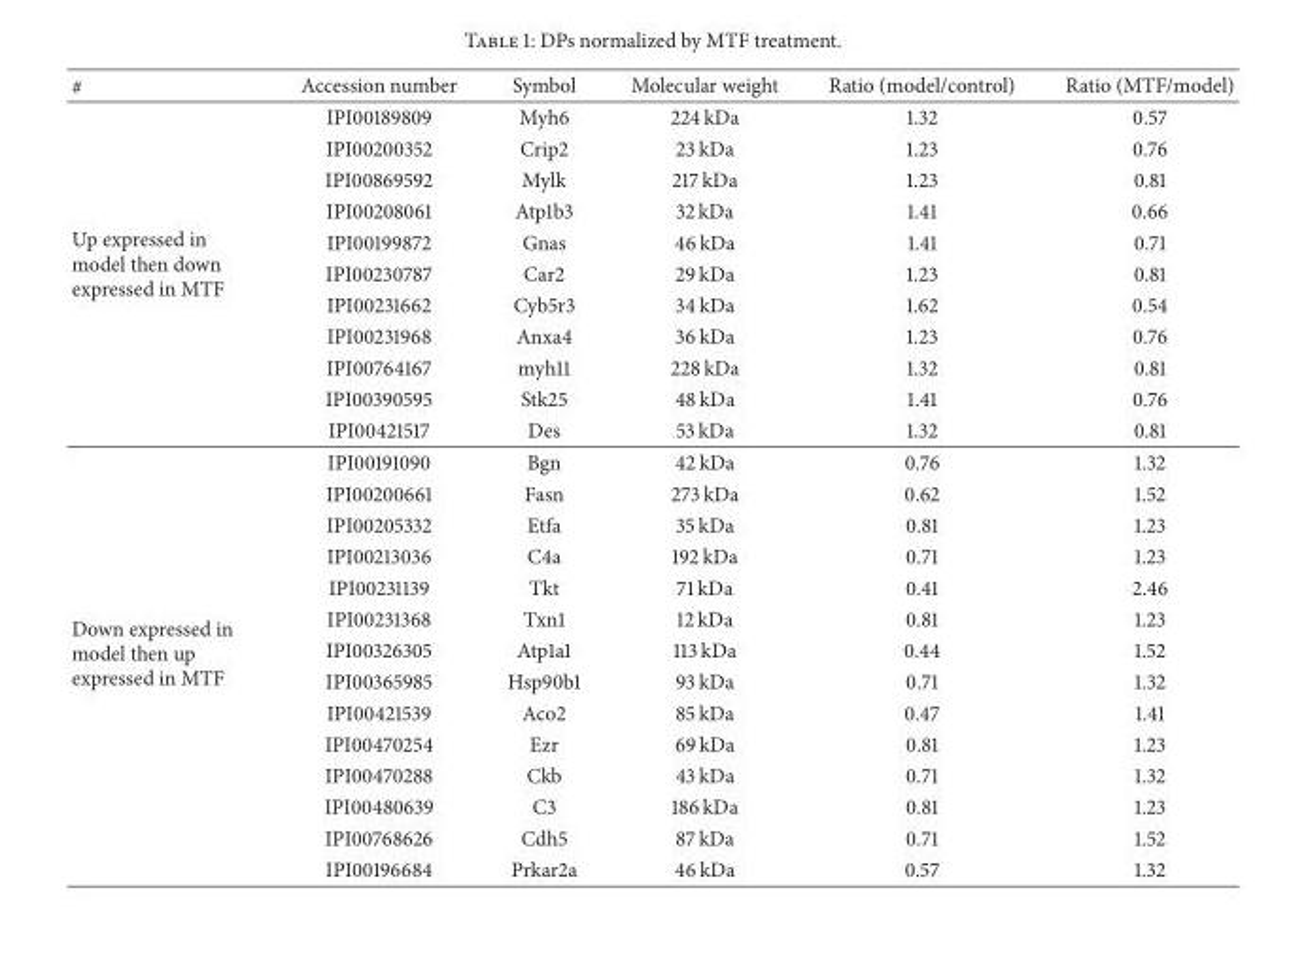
<table><thead><tr><td>#</td><td>Accession number</td><td>Symbol</td><td>Molecular weight</td><td>Ratio (model/control)</td><td>Ratio (MTF/model)</td></tr></thead><tbody><tr><td rowspan="11">Up expressed in model then down expressed in MTF</td><td>IPI00189809</td><td>Myh6</td><td>224 kDa</td><td>1.32</td><td>0.57</td></tr><tr><td>IPI00200352</td><td>Crip2</td><td>23 kDa</td><td>1.23</td><td>0.76</td></tr><tr><td>IPI00869592</td><td>Mylk</td><td>217 kDa</td><td>1.23</td><td>0.81</td></tr><tr><td>IPI00208061</td><td>Atp1b3</td><td>32 kDa</td><td>1.41</td><td>0.66</td></tr><tr><td>IPI00199872</td><td>Gnas</td><td>46 kDa</td><td>1.41</td><td>0.71</td></tr><tr><td>IPI00230787</td><td>Car2</td><td>29 kDa</td><td>1.23</td><td>0.81</td></tr><tr><td>IPI00231662</td><td>Cyb5r3</td><td>34 kDa</td><td>1.62</td><td>0.54</td></tr><tr><td>IPI00231968</td><td>Anxa4</td><td>36 kDa</td><td>1.23</td><td>0.76</td></tr><tr><td>IPI00764167</td><td>myh11</td><td>228 kDa</td><td>1.32</td><td>0.81</td></tr><tr><td>IPI00390595</td><td>Stk25</td><td>48 kDa</td><td>1.41</td><td>0.76</td></tr><tr><td>IPI00421517</td><td>Des</td><td>53 kDa</td><td>1.32</td><td>0.81</td></tr><tr><td rowspan="14">Down expressed in model then up expressed in MTF</td><td>IPI00191090</td><td>Bgn</td><td>42 kDa</td><td>0.76</td><td>1.32</td></tr><tr><td>IPI00200661</td><td>Fasn</td><td>273 kDa</td><td>0.62</td><td>1.52</td></tr><tr><td>IPI00205332</td><td>Etfa</td><td>35 kDa</td><td>0.81</td><td>1.23</td></tr><tr><td>IPI00213036</td><td>C4a</td><td>192 kDa</td><td>0.71</td><td>1.23</td></tr><tr><td>IPI00231139</td><td>Tkt</td><td>71 kDa</td><td>0.41</td><td>2.46</td></tr><tr><td>IPI00231368</td><td>Txn1</td><td>12 kDa</td><td>0.81</td><td>1.23</td></tr><tr><td>IPI00326305</td><td>Atp1a1</td><td>113 kDa</td><td>0.44</td><td>1.52</td></tr><tr><td>IPI00365985</td><td>Hsp90b1</td><td>93 kDa</td><td>0.71</td><td>1.32</td></tr><tr><td>IPI00421539</td><td>Aco2</td><td>85 kDa</td><td>0.47</td><td>1.41</td></tr><tr><td>IPI00470254</td><td>Ezr</td><td>69 kDa</td><td>0.81</td><td>1.23</td></tr><tr><td>IPI00470288</td><td>Ckb</td><td>43 kDa</td><td>0.71</td><td>1.32</td></tr><tr><td>IPI00480639</td><td>C3</td><td>186 kDa</td><td>0.81</td><td>1.23</td></tr><tr><td>IPI00768626</td><td>Cdh5</td><td>87 kDa</td><td>0.71</td><td>1.52</td></tr><tr><td>IPI00196684</td><td>Prkar2a</td><td>46 kDa</td><td>0.57</td><td>1.32</td></tr></tbody></table>